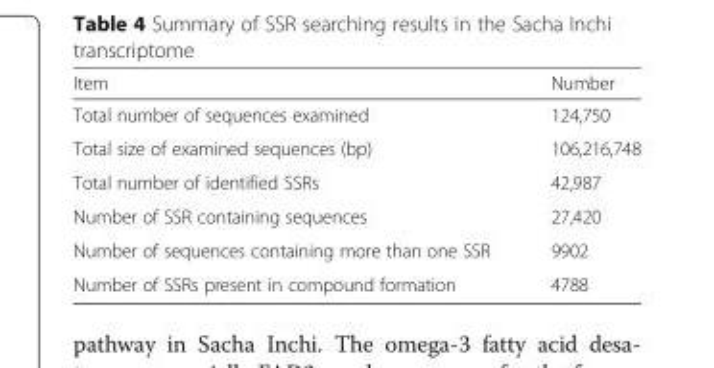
<table><thead><tr><td>Item</td><td>Number</td></tr></thead><tbody><tr><td>Total number of sequences examined</td><td>124,750</td></tr><tr><td>Total size of examined sequences (bp)</td><td>106,216,748</td></tr><tr><td>Total number of identified SSRs</td><td>42,987</td></tr><tr><td>Number of SSR containing sequences</td><td>27,420</td></tr><tr><td>Number of sequences containing more than one SSR</td><td>9902</td></tr><tr><td>Number of SSRs present in compound formation</td><td>4788</td></tr></tbody></table>